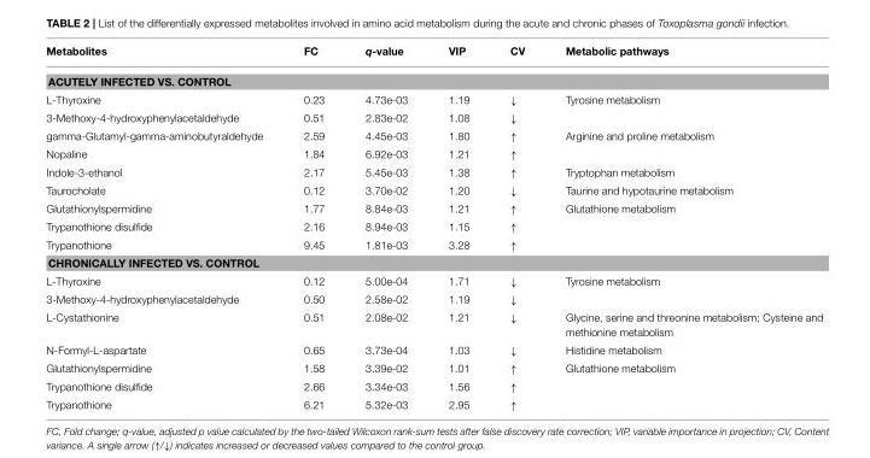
<table><thead><tr><td>Metabolites</td><td>FC</td><td>q-value</td><td>VIP</td><td>CV</td><td>Metabolic pathways</td></tr></thead><tbody><tr><td colspan="6">ACUTELY INFECTED VS. CONTROL</td></tr><tr><td>L-Thyroxine</td><td>0.23</td><td>4.73e-03</td><td>1.19</td><td>↓</td><td>Tyrosine metabolism</td></tr><tr><td>3-Methoxy-4-hydroxyphenylacetaldehyde</td><td>0.51</td><td>2.83e-02</td><td>1.08</td><td>↓</td><td></td></tr><tr><td>gamma-Glutamyl-gamma-aminobutyraldehyde</td><td>2.59</td><td>4.45e-03</td><td>1.80</td><td>↑</td><td>Arginine and proline metabolism</td></tr><tr><td>Nopaline</td><td>1.84</td><td>6.92e-03</td><td>1.21</td><td>↑</td><td></td></tr><tr><td>Indole-3-ethanol</td><td>2.17</td><td>5.45e-03</td><td>1.38</td><td>↑</td><td>Tryptophan metabolism</td></tr><tr><td>Taurocholate</td><td>0.12</td><td>3.70e-02</td><td>1.20</td><td>↓</td><td>Taurine and hypotaurine metabolism</td></tr><tr><td>Glutathionylspermidine</td><td>1.77</td><td>8.84e-03</td><td>1.21</td><td>↑</td><td>Glutathione metabolism</td></tr><tr><td>Trypanothione disulfide</td><td>2.16</td><td>8.94e-03</td><td>1.15</td><td>↑</td><td></td></tr><tr><td>Trypanothione</td><td>9.45</td><td>1.81e-03</td><td>3.28</td><td>↑</td><td></td></tr><tr><td colspan="6">CHRONICALLY INFECTED VS. CONTROL</td></tr><tr><td>L-Thyroxine</td><td>0.12</td><td>5.00e-04</td><td>1.71</td><td>↓</td><td>Tyrosine metabolism</td></tr><tr><td>3-Methoxy-4-hydroxyphenylacetaldehyde</td><td>0.50</td><td>2.58e-02</td><td>1.19</td><td>↓</td><td></td></tr><tr><td>L-Cystathionine</td><td>0.51</td><td>2.08e-02</td><td>1.21</td><td>↓</td><td>Glycine, serine and threonine metabolism; Cysteine and methionine metabolism</td></tr><tr><td>N-Formyl-L-aspartate</td><td>0.65</td><td>3.73e-04</td><td>1.03</td><td>↓</td><td>Histidine metabolism</td></tr><tr><td>Glutathionylspermidine</td><td>1.58</td><td>3.39e-02</td><td>1.01</td><td>↑</td><td>Glutathione metabolism</td></tr><tr><td>Trypanothione disulfide</td><td>2.66</td><td>3.34e-03</td><td>1.56</td><td>↑</td><td></td></tr><tr><td>Trypanothione</td><td>6.21</td><td>5.32e-03</td><td>2.95</td><td>↑</td><td></td></tr></tbody></table>